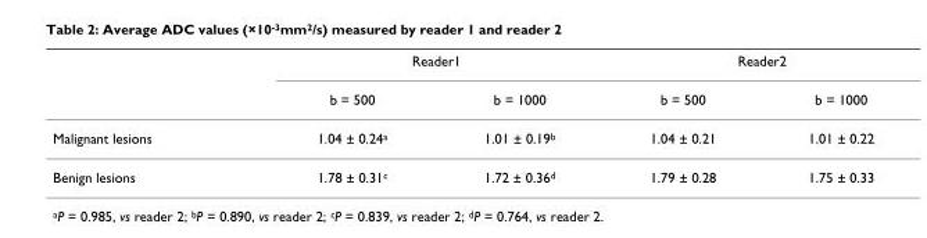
<table><thead><tr><td rowspan="2"></td><td colspan="2">Reader1</td><td colspan="2">Reader2</td></tr><tr><td>b = 500</td><td>b = 1000</td><td>b = 500</td><td>b = 1000</td></tr></thead><tbody><tr><td>Malignant lesions</td><td>1.04 ± 0.24<sup>a</sup></td><td>1.01 ± 0.19<sup>b</sup></td><td>1.04 ± 0.21</td><td>1.01 ± 0.22</td></tr><tr><td>Benign lesions</td><td>1.78 ± 0.31<sup>c</sup></td><td>1.72 ± 0.36<sup>d</sup></td><td>1.79 ± 0.28</td><td>1.75 ± 0.33</td></tr></tbody></table>